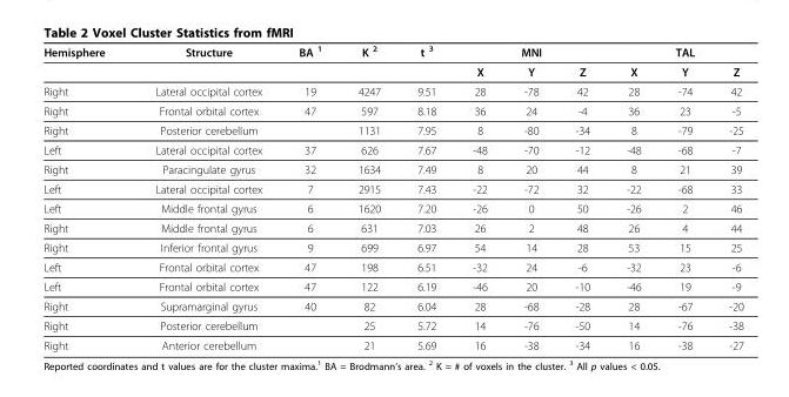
<table><thead><tr><td rowspan="2">Hemisphere</td><td rowspan="2">Structure</td><td rowspan="2">BA <sup>1</sup></td><td rowspan="2">K <sup>2</sup></td><td rowspan="2">t <sup>3</sup></td><td colspan="3">MNI</td><td colspan="3">TAL</td></tr><tr><td>X</td><td>Y</td><td>Z</td><td>X</td><td>Y</td><td>Z</td></tr></thead><tbody><tr><td>Right</td><td>Lateral occipital cortex</td><td>19</td><td>4247</td><td>9.51</td><td>28</td><td>-78</td><td>42</td><td>28</td><td>-74</td><td>42</td></tr><tr><td>Right</td><td>Frontal orbital cortex</td><td>47</td><td>597</td><td>8.18</td><td>36</td><td>24</td><td>-4</td><td>36</td><td>23</td><td>-5</td></tr><tr><td>Right</td><td>Posterior cerebellum</td><td></td><td>1131</td><td>7.95</td><td>8</td><td>-80</td><td>-34</td><td>8</td><td>-79</td><td>-25</td></tr><tr><td>Left</td><td>Lateral occipital cortex</td><td>37</td><td>626</td><td>7.67</td><td>-48</td><td>-70</td><td>-12</td><td>-48</td><td>-68</td><td>-7</td></tr><tr><td>Right</td><td>Paracingulate gyrus</td><td>32</td><td>1634</td><td>7.49</td><td>8</td><td>20</td><td>44</td><td>8</td><td>21</td><td>39</td></tr><tr><td>Left</td><td>Lateral occipital cortex</td><td>7</td><td>2915</td><td>7.43</td><td>-22</td><td>-72</td><td>32</td><td>-22</td><td>-68</td><td>33</td></tr><tr><td>Left</td><td>Middle frontal gyrus</td><td>6</td><td>1620</td><td>7.20</td><td>-26</td><td>0</td><td>50</td><td>-26</td><td>2</td><td>46</td></tr><tr><td>Right</td><td>Middle frontal gyrus</td><td>6</td><td>631</td><td>7.03</td><td>26</td><td>2</td><td>48</td><td>26</td><td>4</td><td>44</td></tr><tr><td>Right</td><td>Inferior frontal gyrus</td><td>9</td><td>699</td><td>6.97</td><td>54</td><td>14</td><td>28</td><td>53</td><td>15</td><td>25</td></tr><tr><td>Left</td><td>Frontal orbital cortex</td><td>47</td><td>198</td><td>6.51</td><td>-32</td><td>24</td><td>-6</td><td>-32</td><td>23</td><td>-6</td></tr><tr><td>Left</td><td>Frontal orbital cortex</td><td>47</td><td>122</td><td>6.19</td><td>-46</td><td>20</td><td>-10</td><td>-46</td><td>19</td><td>-9</td></tr><tr><td>Right</td><td>Supramarginal gyrus</td><td>40</td><td>82</td><td>6.04</td><td>28</td><td>-68</td><td>-28</td><td>28</td><td>-67</td><td>-20</td></tr><tr><td>Right</td><td>Posterior cerebellum</td><td></td><td>25</td><td>5.72</td><td>14</td><td>-76</td><td>-50</td><td>14</td><td>-76</td><td>-38</td></tr><tr><td>Right</td><td>Anterior cerebellum</td><td></td><td>21</td><td>5.69</td><td>16</td><td>-38</td><td>-34</td><td>16</td><td>-38</td><td>-27</td></tr></tbody></table>